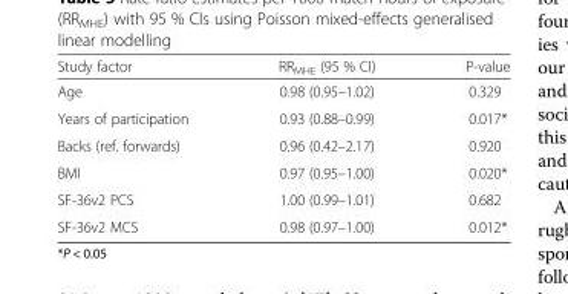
<table><thead><tr><td>Study factor</td><td>RR<sub>MHE</sub> (95 % CI)</td><td>P-value</td></tr></thead><tbody><tr><td>Age</td><td>0.98 (0.95–1.02)</td><td>0.329</td></tr><tr><td>Years of participation</td><td>0.93 (0.88–0.99)</td><td>0.017*</td></tr><tr><td>Backs (ref. forwards)</td><td>0.96 (0.42–2.17)</td><td>0.920</td></tr><tr><td>BMI</td><td>0.97 (0.95–1.00)</td><td>0.020*</td></tr><tr><td>SF-36v2 PCS</td><td>1.00 (0.99–1.01)</td><td>0.682</td></tr><tr><td>SF-36v2 MCS</td><td>0.98 (0.97–1.00)</td><td>0.012*</td></tr></tbody></table>